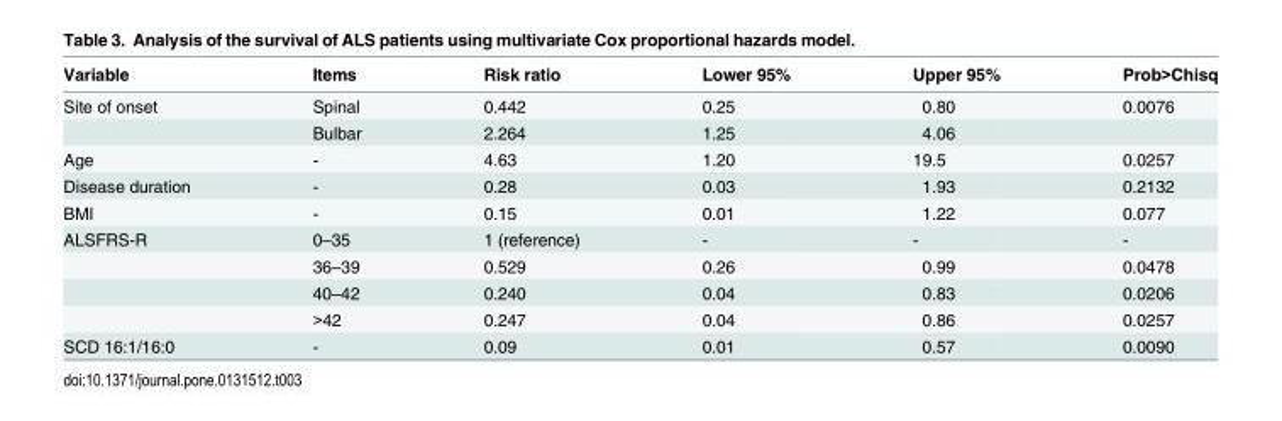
<table><thead><tr><td>Variable</td><td>Items</td><td>Risk ratio</td><td>Lower 95%</td><td>Upper 95%</td><td>Prob&gt;Chisq</td></tr></thead><tbody><tr><td rowspan="2">Site of onset</td><td>Spinal</td><td>0.442</td><td>0.25</td><td>0.80</td><td>0.0076</td></tr><tr><td>Bulbar</td><td>2.264</td><td>1.25</td><td>4.06</td><td></td></tr><tr><td>Age</td><td>-</td><td>4.63</td><td>1.20</td><td>19.5</td><td>0.0257</td></tr><tr><td>Disease duration</td><td>-</td><td>0.28</td><td>0.03</td><td>1.93</td><td>0.2132</td></tr><tr><td>BMI</td><td>-</td><td>0.15</td><td>0.01</td><td>1.22</td><td>0.077</td></tr><tr><td rowspan="4">ALSFRS-R</td><td>0–35</td><td>1 (reference)</td><td>-</td><td>-</td><td>-</td></tr><tr><td>36–39</td><td>0.529</td><td>0.26</td><td>0.99</td><td>0.0478</td></tr><tr><td>40–42</td><td>0.240</td><td>0.04</td><td>0.83</td><td>0.0206</td></tr><tr><td>&gt;42</td><td>0.247</td><td>0.04</td><td>0.86</td><td>0.0257</td></tr><tr><td>SCD 16:1/16:0</td><td>-</td><td>0.09</td><td>0.01</td><td>0.57</td><td>0.0090</td></tr></tbody></table>